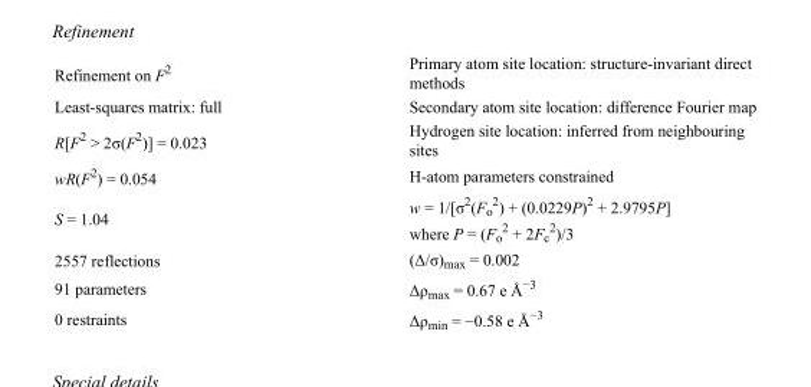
<table><tbody><tr><td>Refinement on F<sup>2</sup></td><td>Primary atom site location: structure-invariant direct methods</td></tr><tr><td>Least-squares matrix: full</td><td>Secondary atom site location: difference Fourier map</td></tr><tr><td>R[F<sup>2</sup> &gt; 2σ(F<sup>2</sup>)] = 0.023</td><td>Hydrogen site location: inferred from neighbouring sites</td></tr><tr><td>wR(F<sup>2</sup>) = 0.054</td><td>H-atom parameters constrained</td></tr><tr><td>S = 1.04</td><td>w = 1/[σ<sup>2</sup>(F<sub>o</sub> <sup>2</sup>) + (0.0229P)<sup>2</sup> + 2.9795P] where P = (F<sub>o</sub> <sup>2</sup> + 2F<sub>c</sub> <sup>2</sup>)/3</td></tr><tr><td>2557 reflections</td><td>(Δ/σ)<sub>max</sub> = 0.002</td></tr><tr><td>91 parameters</td><td>Δρ<sub>max</sub> = 0.67 e Å<sup>−3</sup></td></tr><tr><td>0 restraints</td><td>Δρ<sub>min</sub> = −0.58 e Å<sup>−3</sup></td></tr></tbody></table>